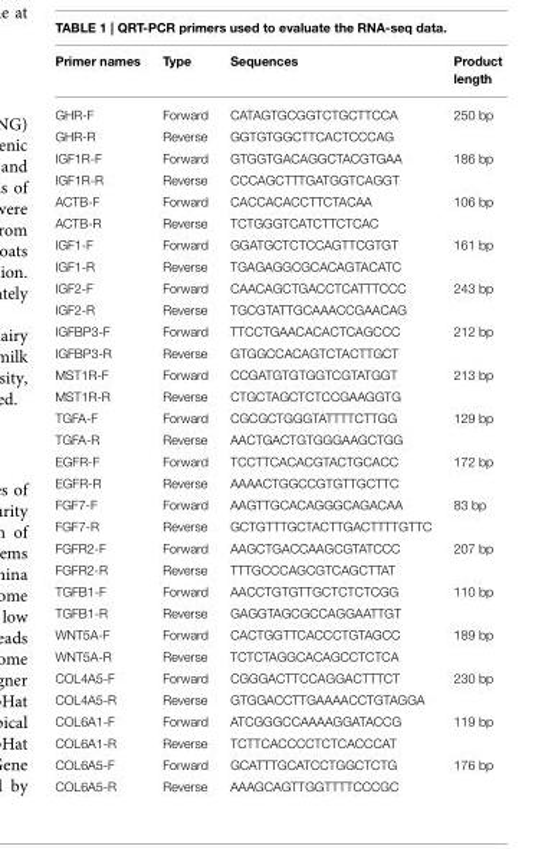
<table><thead><tr><td>Primer names</td><td>Type</td><td>Sequences</td><td>Product length</td></tr></thead><tbody><tr><td>GHR-F</td><td>Forward</td><td>CATAGTGCGGTCTGCTTCCA</td><td>250 bp</td></tr><tr><td>GHR-R</td><td>Reverse</td><td>GGTGTGGCTTCACTCCCAG</td><td></td></tr><tr><td>IGF1R-F</td><td>Forward</td><td>GTGGTGACAGGCTACGTGAA</td><td>186 bp</td></tr><tr><td>IGF1R-R</td><td>Reverse</td><td>CCCAGCTTTGATGGTCAGGT</td><td></td></tr><tr><td>ACTB-F</td><td>Forward</td><td>CACCACACCTTCTACAA</td><td>106 bp</td></tr><tr><td>ACTB-R</td><td>Reverse</td><td>TCTGGGTCATCTTCTCAC</td><td></td></tr><tr><td>IGF1-F</td><td>Forward</td><td>GGATGCTCTCCAGTTCGTGT</td><td>161 bp</td></tr><tr><td>IGF1-R</td><td>Reverse</td><td>TGAGAGGCGCACAGTACATC</td><td></td></tr><tr><td>IGF2-F</td><td>Forward</td><td>CAACAGCTGACCTCATTTCCC</td><td>243 bp</td></tr><tr><td>IGF2-R</td><td>Reverse</td><td>TGCGTATTGCAAACCGAACAG</td><td></td></tr><tr><td>IGFBP3-F</td><td>Forward</td><td>TTCCTGAACACACTCAGCCC</td><td>212 bp</td></tr><tr><td>IGFBP3-R</td><td>Reverse</td><td>GTGGCCACAGTCTACTTGCT</td><td></td></tr><tr><td>MST1R-F</td><td>Forward</td><td>CCGATGTGTGGTCGTATGGT</td><td>213 bp</td></tr><tr><td>MST1R-R</td><td>Reverse</td><td>CTGCTAGCTCTCCGAAGGTG</td><td></td></tr><tr><td>TGFA-F</td><td>Forward</td><td>CGCGCTGGGTATTTTCTTGG</td><td>129 bp</td></tr><tr><td>TGFA-R</td><td>Reverse</td><td>AACTGACTGTGGGAAGCTGG</td><td></td></tr><tr><td>EGFR-F</td><td>Forward</td><td>TCCTTCACACGTACTGCACC</td><td>172 bp</td></tr><tr><td>EGFR-R</td><td>Reverse</td><td>AAAACTGGCCGTGTTGCTTC</td><td></td></tr><tr><td>FGF7-F</td><td>Forward</td><td>AAGTTGCACAGGGCAGACAA</td><td>83 bp</td></tr><tr><td>FGF7-R</td><td>Reverse</td><td>GCTGTTTGCTACTTGACTTTTGTTC</td><td></td></tr><tr><td>FGFR2-F</td><td>Forward</td><td>AAGCTGACCAAGCGTATCCC</td><td>207 bp</td></tr><tr><td>FGFR2-R</td><td>Reverse</td><td>TTTGCCCAGCGTCAGCTTAT</td><td></td></tr><tr><td>TGFB1-F</td><td>Forward</td><td>AACCTGTGTTGCTCTCTCGG</td><td>110 bp</td></tr><tr><td>TGFB1-R</td><td>Reverse</td><td>GAGGTAGCGCCAGGAATTGT</td><td></td></tr><tr><td>WNT5A-F</td><td>Forward</td><td>CACTGGTTCACCCTGTAGCC</td><td>189 bp</td></tr><tr><td>WNT5A-R</td><td>Reverse</td><td>TCTCTAGGCACAGCCTCTCA</td><td></td></tr><tr><td>COL4A5-F</td><td>Forward</td><td>CGGGACTTCCAGGACTTTCT</td><td>230 bp</td></tr><tr><td>COL4A5-R</td><td>Reverse</td><td>GTGGACCTTGAAAACCTGTAGGA</td><td></td></tr><tr><td>COL6A1-F</td><td>Forward</td><td>ATCGGGCCAAAAGGATACCG</td><td>119 bp</td></tr><tr><td>COL6A1-R</td><td>Reverse</td><td>TCTTCACCCCTCTCACCCAT</td><td></td></tr><tr><td>COL6A5-F</td><td>Forward</td><td>GCATTTGCATCCTGGCTCTG</td><td>176 bp</td></tr><tr><td>COL6A5-R</td><td>Reverse</td><td>AAAGCAGTTGGTTTTCCCGC</td><td></td></tr></tbody></table>